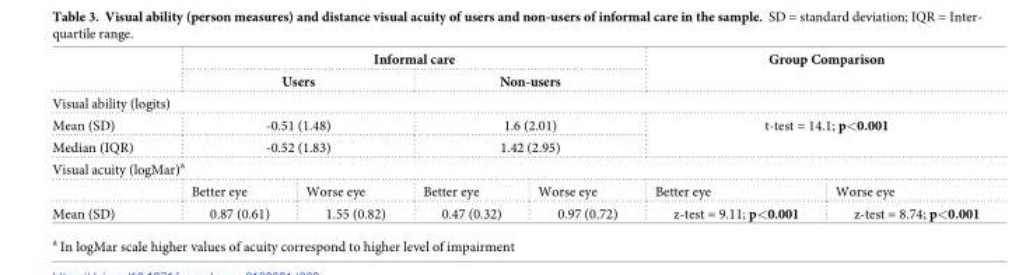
<table><thead><tr><td rowspan="2"></td><td colspan="4">Informal care</td><td rowspan="2" colspan="2">Group Comparison</td></tr><tr><td colspan="2">Users</td><td colspan="2">Non-users</td></tr></thead><tbody><tr><td colspan="7">Visual ability (logits)</td></tr><tr><td>Mean (SD)</td><td colspan="2">-0.51 (1.48)</td><td colspan="2">1.6 (2.01)</td><td rowspan="2" colspan="2">t-test = 14.1; p&lt;0.001</td></tr><tr><td>Median (IQR)</td><td colspan="2">-0.52 (1.83)</td><td colspan="2">1.42 (2.95)</td></tr><tr><td colspan="7">Visual acuity (logMar)<sup>a</sup></td></tr><tr><td></td><td>Better eye</td><td>Worse eye</td><td>Better eye</td><td>Worse eye</td><td>Better eye</td><td>Worse eye</td></tr><tr><td>Mean (SD)</td><td>0.87 (0.61)</td><td>1.55 (0.82)</td><td>0.47 (0.32)</td><td>0.97 (0.72)</td><td>z-test = 9.11; p&lt;0.001</td><td>z-test = 8.74; p&lt;0.001</td></tr></tbody></table>